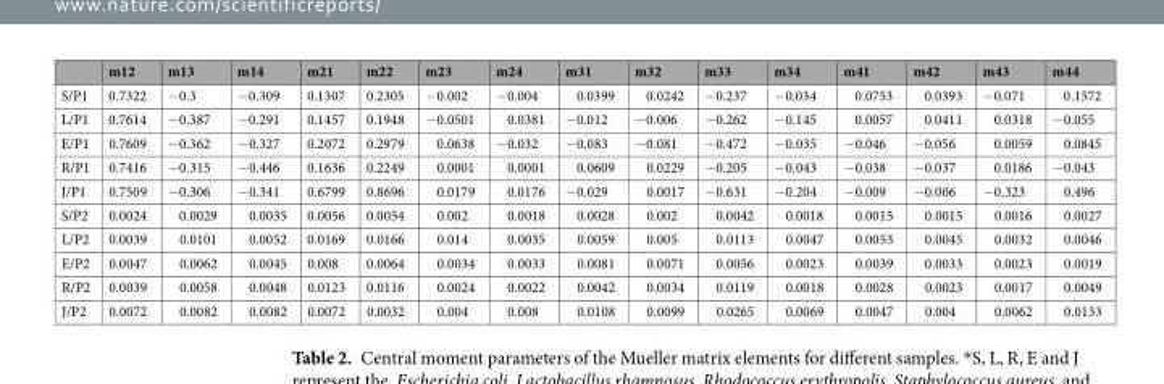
<table><thead><tr><td></td><td>m12</td><td>m13</td><td>m14</td><td>m21</td><td>m22</td><td>m23</td><td>m24</td><td>m31</td><td>m32</td><td>m33</td><td>m34</td><td>m41</td><td>m42</td><td>m43</td><td>m44</td></tr></thead><tbody><tr><td>S/P1</td><td>0.7322</td><td>-0.3</td><td>-0.309</td><td>0.1307</td><td>0.2305</td><td>-0.002</td><td>-0.004</td><td>0.0399</td><td>0.0242</td><td>-0.237</td><td>-0.034</td><td>0.0753</td><td>0.0393</td><td>-0.071</td><td>0.1572</td></tr><tr><td>L/P1</td><td>0.7614</td><td>-0.387</td><td>-0.291</td><td>0.1457</td><td>0.1948</td><td>-0.0501</td><td>0.0381</td><td>-0.012</td><td>-0.006</td><td>-0.262</td><td>-0.145</td><td>0.0057</td><td>0.0411</td><td>0.0318</td><td>-0.055</td></tr><tr><td>E/P1</td><td>0.7609</td><td>-0.362</td><td>-0.327</td><td>0.2072</td><td>0.2979</td><td>0.0638</td><td>-0.032</td><td>-0.083</td><td>-0.081</td><td>-0.472</td><td>-0.035</td><td>-0.046</td><td>-0.056</td><td>0.0059</td><td>0.0845</td></tr><tr><td>R/P1</td><td>0.7416</td><td>-0.315</td><td>-0.446</td><td>0.1636</td><td>0.2249</td><td>0.0001</td><td>0.0001</td><td>0.0609</td><td>0.0229</td><td>-0.205</td><td>-0.043</td><td>-0.038</td><td>-0.037</td><td>0.0186</td><td>-0.043</td></tr><tr><td>J/P1</td><td>0.7509</td><td>-0.306</td><td>-0.341</td><td>0.6799</td><td>0.8696</td><td>0.0179</td><td>0.0176</td><td>-0.029</td><td>0.0017</td><td>-0.631</td><td>-0.204</td><td>-0.009</td><td>-0.006</td><td>-0.323</td><td>0.496</td></tr><tr><td>S/P2</td><td>0.0024</td><td>0.0029</td><td>0.0035</td><td>0.0056</td><td>0.0054</td><td>0.002</td><td>0.0018</td><td>0.0028</td><td>0.002</td><td>0.0042</td><td>0.0018</td><td>0.0015</td><td>0.0015</td><td>0.0016</td><td>0.0027</td></tr><tr><td>L/P2</td><td>0.0039</td><td>0.0101</td><td>0.0052</td><td>0.0169</td><td>0.0166</td><td>0.014</td><td>0.0035</td><td>0.0059</td><td>0.005</td><td>0.0113</td><td>0.0047</td><td>0.0053</td><td>0.0045</td><td>0.0032</td><td>0.0046</td></tr><tr><td>E/P2</td><td>0.0047</td><td>0.0062</td><td>0.0045</td><td>0.008</td><td>0.0064</td><td>0.0034</td><td>0.0033</td><td>0.0081</td><td>0.0071</td><td>0.0056</td><td>0.0023</td><td>0.0039</td><td>0.0033</td><td>0.0023</td><td>0.0019</td></tr><tr><td>R/P2</td><td>0.0039</td><td>0.0058</td><td>0.0048</td><td>0.0123</td><td>0.0116</td><td>0.0024</td><td>0.0022</td><td>0.0042</td><td>0.0034</td><td>0.0119</td><td>0.0018</td><td>0.0028</td><td>0.0023</td><td>0.0017</td><td>0.0049</td></tr><tr><td>J/P2</td><td>0.0072</td><td>0.0082</td><td>0.0082</td><td>0.0072</td><td>0.0032</td><td>0.004</td><td>0.008</td><td>0.0108</td><td>0.0099</td><td>0.0265</td><td>0.0069</td><td>0.0047</td><td>0.004</td><td>0.0062</td><td>0.0133</td></tr></tbody></table>